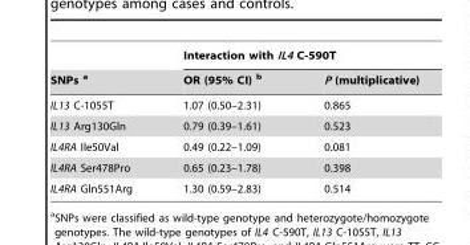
<table><thead><tr><td rowspan="2">SNPs a</td><td colspan="2">Interaction with IL4 C-590T</td></tr><tr><td>OR (95% CI) b</td><td>P (multiplicative)</td></tr></thead><tbody><tr><td>IL13 C-1055T</td><td>1.07 (0.50–2.31)</td><td>0.865</td></tr><tr><td>IL13 Arg130Gln</td><td>0.79 (0.39–1.61)</td><td>0.523</td></tr><tr><td>IL4RA Ile50Val</td><td>0.49 (0.22–1.09)</td><td>0.081</td></tr><tr><td>IL4RA Ser478Pro</td><td>0.65 (0.23–1.78)</td><td>0.398</td></tr><tr><td>IL4RA Gln551Arg</td><td>1.30 (0.59–2.83)</td><td>0.514</td></tr></tbody></table>